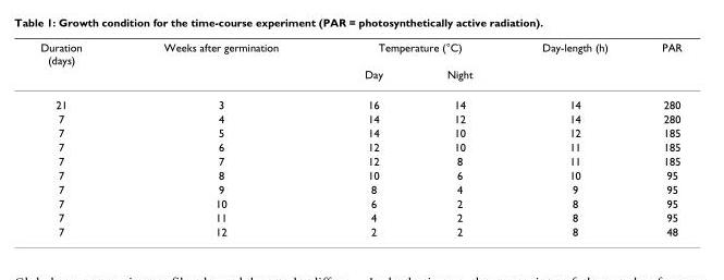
<table><thead><tr><td rowspan="2">Duration (days)</td><td rowspan="2">Weeks after germination</td><td colspan="2">Temperature (°C)</td><td rowspan="2">Day-length (h)</td><td rowspan="2">PAR</td></tr><tr><td>Day</td><td>Night</td></tr></thead><tbody><tr><td>21</td><td>3</td><td>16</td><td>14</td><td>14</td><td>280</td></tr><tr><td>7</td><td>4</td><td>14</td><td>12</td><td>14</td><td>280</td></tr><tr><td>7</td><td>5</td><td>14</td><td>10</td><td>12</td><td>185</td></tr><tr><td>7</td><td>6</td><td>12</td><td>10</td><td>11</td><td>185</td></tr><tr><td>7</td><td>7</td><td>12</td><td>8</td><td>11</td><td>185</td></tr><tr><td>7</td><td>8</td><td>10</td><td>6</td><td>10</td><td>95</td></tr><tr><td>7</td><td>9</td><td>8</td><td>4</td><td>9</td><td>95</td></tr><tr><td>7</td><td>10</td><td>6</td><td>2</td><td>8</td><td>95</td></tr><tr><td>7</td><td>11</td><td>4</td><td>2</td><td>8</td><td>95</td></tr><tr><td>7</td><td>12</td><td>2</td><td>2</td><td>8</td><td>48</td></tr></tbody></table>